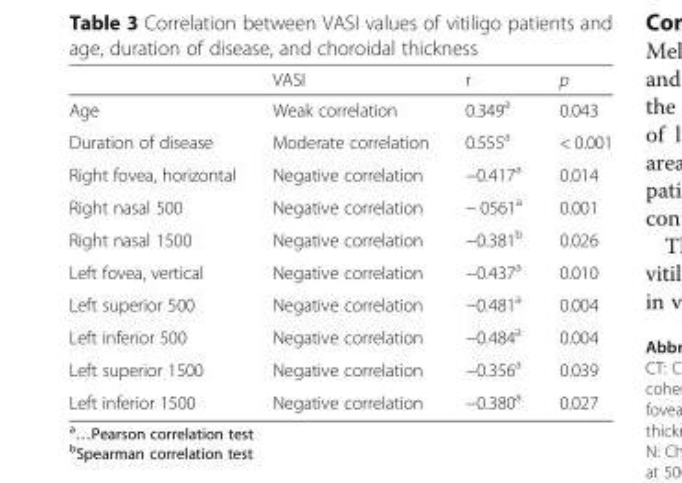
<table><thead><tr><td></td><td>VASI</td><td>r</td><td>p</td></tr></thead><tbody><tr><td>Age</td><td>Weak correlation</td><td>0.349<sup>a</sup></td><td>0.043</td></tr><tr><td>Duration of disease</td><td>Moderate correlation</td><td>0.555<sup>a</sup></td><td>&lt; 0.001</td></tr><tr><td>Right fovea, horizontal</td><td>Negative correlation</td><td>−0.417<sup>a</sup></td><td>0.014</td></tr><tr><td>Right nasal 500</td><td>Negative correlation</td><td>− 0561<sup>a</sup></td><td>0.001</td></tr><tr><td>Right nasal 1500</td><td>Negative correlation</td><td>−0.381<sup>b</sup></td><td>0.026</td></tr><tr><td>Left fovea, vertical</td><td>Negative correlation</td><td>−0.437<sup>a</sup></td><td>0.010</td></tr><tr><td>Left superior 500</td><td>Negative correlation</td><td>−0.481<sup>a</sup></td><td>0.004</td></tr><tr><td>Left inferior 500</td><td>Negative correlation</td><td>−0.484<sup>a</sup></td><td>0.004</td></tr><tr><td>Left superior 1500</td><td>Negative correlation</td><td>−0.356<sup>a</sup></td><td>0.039</td></tr><tr><td>Left inferior 1500</td><td>Negative correlation</td><td>−0.380<sup>a</sup></td><td>0.027</td></tr></tbody></table>